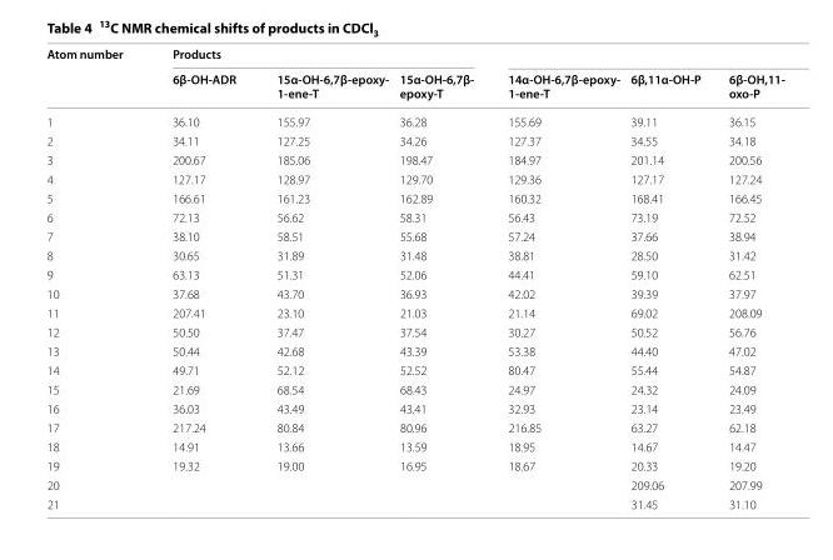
<table><thead><tr><td rowspan="2">Atom number</td><td colspan="3">Products</td><td rowspan="2">14α-OH-6,7β-epoxy- 1-ene-T</td><td rowspan="2">6β,11α-OH-P</td><td rowspan="2">6β-OH,11- oxo-P</td></tr><tr><td>6β-OH-ADR</td><td>15α-OH-6,7β-epoxy- 1-ene-T</td><td>15α-OH-6,7β- epoxy-T</td></tr></thead><tbody><tr><td>1</td><td>36.10</td><td>155.97</td><td>36.28</td><td>155.69</td><td>39.11</td><td>36.15</td></tr><tr><td>2</td><td>34.11</td><td>127.25</td><td>34.26</td><td>127.37</td><td>34.55</td><td>34.18</td></tr><tr><td>3</td><td>200.67</td><td>185.06</td><td>198.47</td><td>184.97</td><td>201.14</td><td>200.56</td></tr><tr><td>4</td><td>127.17</td><td>128.97</td><td>129.70</td><td>129.36</td><td>127.17</td><td>127.24</td></tr><tr><td>5</td><td>166.61</td><td>161.23</td><td>162.89</td><td>160.32</td><td>168.41</td><td>166.45</td></tr><tr><td>6</td><td>72.13</td><td>56.62</td><td>58.31</td><td>56.43</td><td>73.19</td><td>72.52</td></tr><tr><td>7</td><td>38.10</td><td>58.51</td><td>55.68</td><td>57.24</td><td>37.66</td><td>38.94</td></tr><tr><td>8</td><td>30.65</td><td>31.89</td><td>31.48</td><td>38.81</td><td>28.50</td><td>31.42</td></tr><tr><td>9</td><td>63.13</td><td>51.31</td><td>52.06</td><td>44.41</td><td>59.10</td><td>62.51</td></tr><tr><td>10</td><td>37.68</td><td>43.70</td><td>36.93</td><td>42.02</td><td>39.39</td><td>37.97</td></tr><tr><td>11</td><td>207.41</td><td>23.10</td><td>21.03</td><td>21.14</td><td>69.02</td><td>208.09</td></tr><tr><td>12</td><td>50.50</td><td>37.47</td><td>37.54</td><td>30.27</td><td>50.52</td><td>56.76</td></tr><tr><td>13</td><td>50.44</td><td>42.68</td><td>43.39</td><td>53.38</td><td>44.40</td><td>47.02</td></tr><tr><td>14</td><td>49.71</td><td>52.12</td><td>52.52</td><td>80.47</td><td>55.44</td><td>54.87</td></tr><tr><td>15</td><td>21.69</td><td>68.54</td><td>68.43</td><td>24.97</td><td>24.32</td><td>24.09</td></tr><tr><td>16</td><td>36.03</td><td>43.49</td><td>43.41</td><td>32.93</td><td>23.14</td><td>23.49</td></tr><tr><td>17</td><td>217.24</td><td>80.84</td><td>80.96</td><td>216.85</td><td>63.27</td><td>62.18</td></tr><tr><td>18</td><td>14.91</td><td>13.66</td><td>13.59</td><td>18.95</td><td>14.67</td><td>14.47</td></tr><tr><td>19</td><td>19.32</td><td>19.00</td><td>16.95</td><td>18.67</td><td>20.33</td><td>19.20</td></tr><tr><td>20</td><td></td><td></td><td></td><td></td><td>209.06</td><td>207.99</td></tr><tr><td>21</td><td></td><td></td><td></td><td></td><td>31.45</td><td>31.10</td></tr></tbody></table>